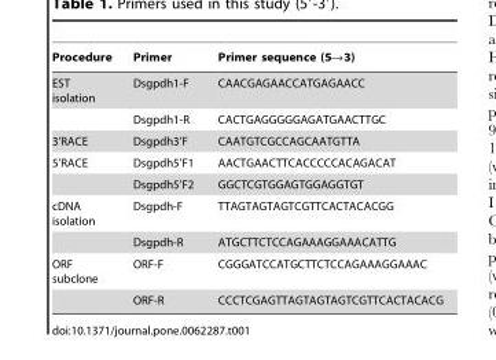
<table><thead><tr><td>Procedure</td><td>Primer</td><td>Primer sequence (5→3)</td></tr></thead><tbody><tr><td rowspan="2">EST isolation</td><td>Dsgpdh1-F</td><td>CAACGAGAACCATGAGAACC</td></tr><tr><td>Dsgpdh1-R</td><td>CACTGAGGGGGAGATGAACTTGC</td></tr><tr><td>3’RACE</td><td>Dsgpdh3’F</td><td>CAATGTCGCCAGCAATGTTA</td></tr><tr><td rowspan="2">5’RACE</td><td>Dsgpdh5’F1</td><td>AACTGAACTTCACCCCCACAGACAT</td></tr><tr><td>Dsgpdh5’F2</td><td>GGCTCGTGGAGTGGAGGTGT</td></tr><tr><td rowspan="2">cDNA isolation</td><td>Dsgpdh-F</td><td>TTAGTAGTAGTCGTTCACTACACGG</td></tr><tr><td>Dsgpdh-R</td><td>ATGCTTCTCCAGAAAGGAAACATTG</td></tr><tr><td rowspan="2">ORF subclone</td><td>ORF-F</td><td>CGGGATCCATGCTTCTCCAGAAAGGAAAC</td></tr><tr><td>ORF-R</td><td>CCCTCGAGTTAGTAGTAGTCGTTCACTACACG</td></tr></tbody></table>